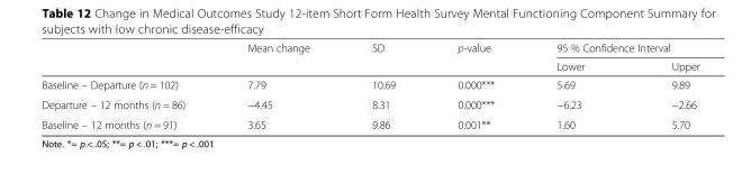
<table><thead><tr><td rowspan="2"></td><td rowspan="2">Mean change</td><td rowspan="2">SD</td><td rowspan="2">p-value</td><td colspan="2">95 % Confidence Interval</td></tr><tr><td>Lower</td><td>Upper</td></tr></thead><tbody><tr><td>Baseline – Departure (n = 102)</td><td>7.79</td><td>10.69</td><td>0.000***</td><td>5.69</td><td>9.89</td></tr><tr><td>Departure – 12 months (n = 86)</td><td>−4.45</td><td>8.31</td><td>0.000***</td><td>−6.23</td><td>−2.66</td></tr><tr><td>Baseline – 12 months (n = 91)</td><td>3.65</td><td>9.86</td><td>0.001**</td><td>1.60</td><td>5.70</td></tr></tbody></table>